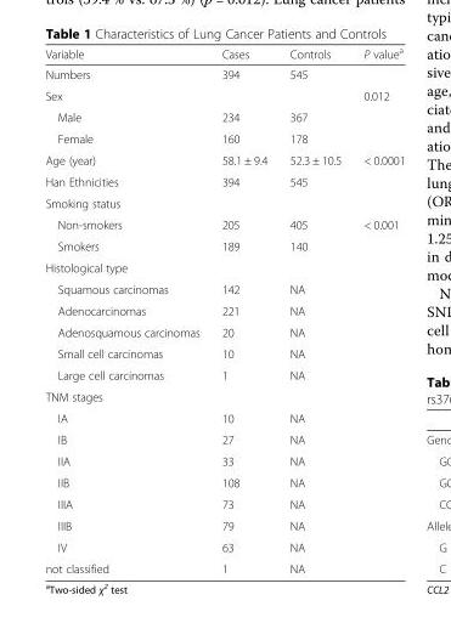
<table><thead><tr><td>Variable</td><td>Cases</td><td>Controls</td><td>P value<sup>a</sup></td></tr></thead><tbody><tr><td>Numbers</td><td>394</td><td>545</td><td></td></tr><tr><td>Sex</td><td></td><td></td><td>0.012</td></tr><tr><td>Male</td><td>234</td><td>367</td><td></td></tr><tr><td>Female</td><td>160</td><td>178</td><td></td></tr><tr><td>Age (year)</td><td>58.1 ± 9.4</td><td>52.3 ± 10.5</td><td>&lt; 0.0001</td></tr><tr><td>Han Ethnicities</td><td>394</td><td>545</td><td></td></tr><tr><td colspan="4">Smoking status</td></tr><tr><td>Non-smokers</td><td>205</td><td>405</td><td>&lt; 0.001</td></tr><tr><td>Smokers</td><td>189</td><td>140</td><td></td></tr><tr><td colspan="4">Histological type</td></tr><tr><td>Squamous carcinomas</td><td>142</td><td>NA</td><td></td></tr><tr><td>Adenocarcinomas</td><td>221</td><td>NA</td><td></td></tr><tr><td>Adenosquamous carcinomas</td><td>20</td><td>NA</td><td></td></tr><tr><td>Small cell carcinomas</td><td>10</td><td>NA</td><td></td></tr><tr><td>Large cell carcinomas</td><td>1</td><td>NA</td><td></td></tr><tr><td colspan="4">TNM stages</td></tr><tr><td>IA</td><td>10</td><td>NA</td><td></td></tr><tr><td>IB</td><td>27</td><td>NA</td><td></td></tr><tr><td>IIA</td><td>33</td><td>NA</td><td></td></tr><tr><td>IIB</td><td>108</td><td>NA</td><td></td></tr><tr><td>IIIA</td><td>73</td><td>NA</td><td></td></tr><tr><td>IIIB</td><td>79</td><td>NA</td><td></td></tr><tr><td>IV</td><td>63</td><td>NA</td><td></td></tr><tr><td>not classified</td><td>1</td><td>NA</td><td></td></tr></tbody></table>